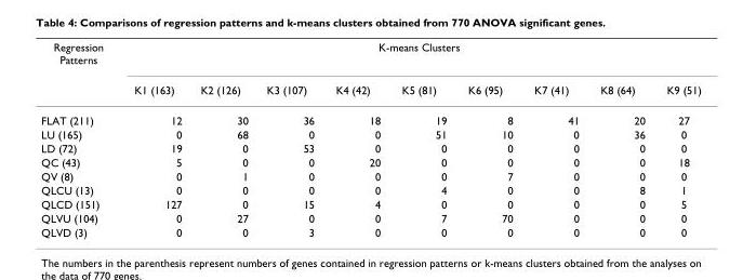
<table><thead><tr><td rowspan="2">Regression Patterns</td><td colspan="9">K-means Clusters</td></tr><tr><td>K1 (163)</td><td>K2 (126)</td><td>K3 (107)</td><td>K4 (42)</td><td>K5 (81)</td><td>K6 (95)</td><td>K7 (41)</td><td>K8 (64)</td><td>K9 (51)</td></tr></thead><tbody><tr><td>FLAT (211)</td><td>12</td><td>30</td><td>36</td><td>18</td><td>19</td><td>8</td><td>41</td><td>20</td><td>27</td></tr><tr><td>LU (165)</td><td>0</td><td>68</td><td>0</td><td>0</td><td>51</td><td>10</td><td>0</td><td>36</td><td>0</td></tr><tr><td>LD (72)</td><td>19</td><td>0</td><td>53</td><td>0</td><td>0</td><td>0</td><td>0</td><td>0</td><td>0</td></tr><tr><td>QC (43)</td><td>5</td><td>0</td><td>0</td><td>20</td><td>0</td><td>0</td><td>0</td><td>0</td><td>18</td></tr><tr><td>QV (8)</td><td>0</td><td>1</td><td>0</td><td>0</td><td>0</td><td>7</td><td>0</td><td>0</td><td>0</td></tr><tr><td>QLCU (13)</td><td>0</td><td>0</td><td>0</td><td>0</td><td>4</td><td>0</td><td>0</td><td>8</td><td>1</td></tr><tr><td>QLCD (151)</td><td>127</td><td>0</td><td>15</td><td>4</td><td>0</td><td>0</td><td>0</td><td>0</td><td>5</td></tr><tr><td>QLVU (104)</td><td>0</td><td>27</td><td>0</td><td>0</td><td>7</td><td>70</td><td>0</td><td>0</td><td>0</td></tr><tr><td>QLVD (3)</td><td>0</td><td>0</td><td>3</td><td>0</td><td>0</td><td>0</td><td>0</td><td>0</td><td>0</td></tr></tbody></table>